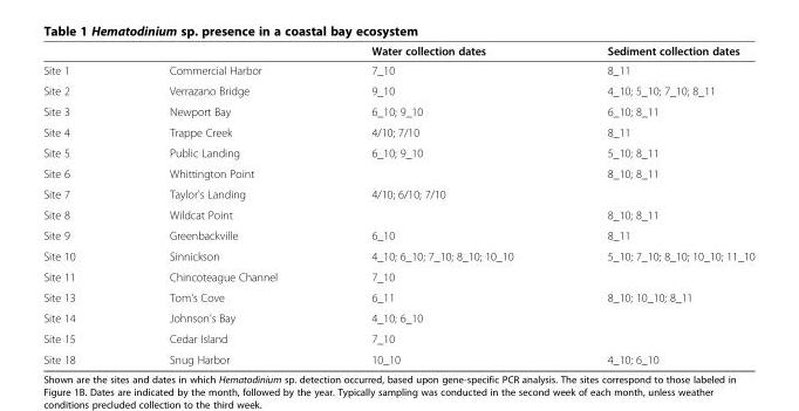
<table><thead><tr><td></td><td></td><td>Water collection dates</td><td>Sediment collection dates</td></tr></thead><tbody><tr><td>Site 1</td><td>Commercial Harbor</td><td>7_10</td><td>8_11</td></tr><tr><td>Site 2</td><td>Verrazano Bridge</td><td>9_10</td><td>4_10; 5_10; 7_10; 8_11</td></tr><tr><td>Site 3</td><td>Newport Bay</td><td>6_10; 9_10</td><td>6_10; 8_11</td></tr><tr><td>Site 4</td><td>Trappe Creek</td><td>4/10; 7/10</td><td>8_11</td></tr><tr><td>Site 5</td><td>Public Landing</td><td>6_10; 9_10</td><td>5_10; 8_11</td></tr><tr><td>Site 6</td><td>Whittington Point</td><td></td><td>8_10; 8_11</td></tr><tr><td>Site 7</td><td>Taylor&#x27;s Landing</td><td>4/10; 6/10; 7/10</td><td></td></tr><tr><td>Site 8</td><td>Wildcat Point</td><td></td><td>8_10; 8_11</td></tr><tr><td>Site 9</td><td>Greenbackville</td><td>6_10</td><td>8_11</td></tr><tr><td>Site 10</td><td>Sinnickson</td><td>4_10; 6_10; 7_10; 8_10; 10_10</td><td>5_10; 7_10; 8_10; 10_10; 11_10</td></tr><tr><td>Site 11</td><td>Chincoteague Channel</td><td>7_10</td><td></td></tr><tr><td>Site 13</td><td>Tom&#x27;s Cove</td><td>6_11</td><td>8_10; 10_10; 8_11</td></tr><tr><td>Site 14</td><td>Johnson&#x27;s Bay</td><td>4_10; 6_10</td><td></td></tr><tr><td>Site 15</td><td>Cedar Island</td><td>7_10</td><td></td></tr><tr><td>Site 18</td><td>Snug Harbor</td><td>10_10</td><td>4_10; 6_10</td></tr></tbody></table>